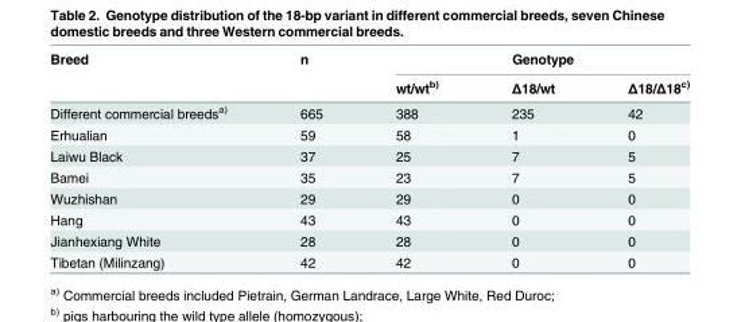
<table><thead><tr><td rowspan="2">Breed</td><td rowspan="2">n</td><td colspan="3">Genotype</td></tr><tr><td>wt/wt<sup>b)</sup></td><td>Δ18/wt</td><td>Δ18/Δ18<sup>c)</sup></td></tr></thead><tbody><tr><td>Different commercial breeds<sup>a)</sup></td><td>665</td><td>388</td><td>235</td><td>42</td></tr><tr><td>Erhualian</td><td>59</td><td>58</td><td>1</td><td>0</td></tr><tr><td>Laiwu Black</td><td>37</td><td>25</td><td>7</td><td>5</td></tr><tr><td>Bamei</td><td>35</td><td>23</td><td>7</td><td>5</td></tr><tr><td>Wuzhishan</td><td>29</td><td>29</td><td>0</td><td>0</td></tr><tr><td>Hang</td><td>43</td><td>43</td><td>0</td><td>0</td></tr><tr><td>Jianhexiang White</td><td>28</td><td>28</td><td>0</td><td>0</td></tr><tr><td>Tibetan (Milinzang)</td><td>42</td><td>42</td><td>0</td><td>0</td></tr></tbody></table>